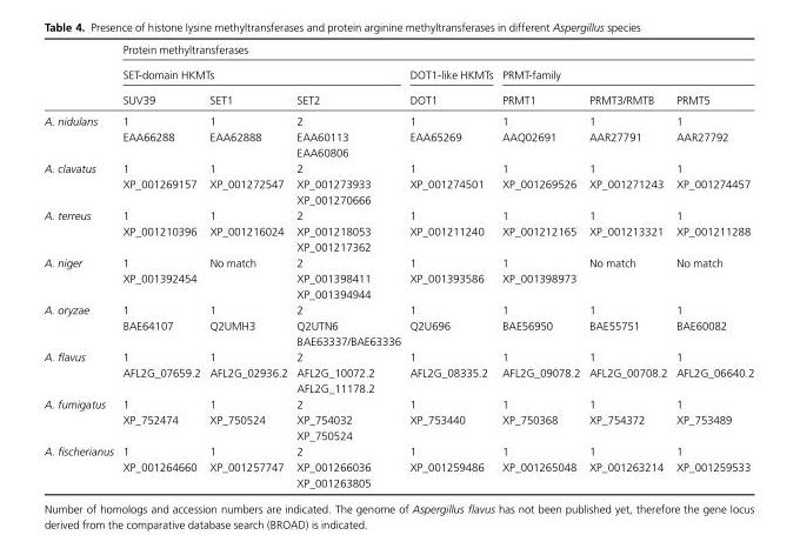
<table><thead><tr><td rowspan="3"></td><td colspan="7">Protein methyltransferases</td></tr><tr><td colspan="3">SET-domain HKMTs</td><td rowspan="2">DOT1-like HKMTs DOT1</td><td colspan="3">PRMT-family</td></tr><tr><td>SUV39</td><td>SET1</td><td>SET2</td><td>PRMT1</td><td>PRMT3/RMTB</td><td>PRMT5</td></tr></thead><tbody><tr><td>A. nidulans</td><td>1 EAA66288</td><td>1 EAA62888</td><td>2 EAA60113 EAA60806</td><td>1 EAA65269</td><td>1 AAQ02691</td><td>1 AAR27791</td><td>1 AAR27792</td></tr><tr><td>A. clavatus</td><td>1 XP_001269157</td><td>1 XP_001272547</td><td>2 XP_001273933 XP_001270666</td><td>1 XP_001274501</td><td>1 XP_001269526</td><td>1 XP_001271243</td><td>1 XP_001274457</td></tr><tr><td>A. terreus</td><td>1 XP_001210396</td><td>1 XP_001216024</td><td>2 XP_001218053 XP_001217362</td><td>1 XP_001211240</td><td>1 XP_001212165</td><td>1 XP_001213321</td><td>1 XP_001211288</td></tr><tr><td>A. niger</td><td>1 XP_001392454</td><td>No match</td><td>2 XP_001398411 XP_001394944</td><td>1 XP_001393586</td><td>1 XP_001398973</td><td>No match</td><td>No match</td></tr><tr><td>A. oryzae</td><td>1 BAE64107</td><td>1 Q2UMH3</td><td>2 Q2UTN6 BAE63337/BAE63336</td><td>1 Q2U696</td><td>1 BAE56950</td><td>1 BAE55751</td><td>1 BAE60082</td></tr><tr><td>A. flavus</td><td>1 AFL2G_07659.2</td><td>1 AFL2G_02936.2</td><td>2 AFL2G_10072.2 AFL2G_11178.2</td><td>1 AFL2G_08335.2</td><td>1 AFL2G_09078.2</td><td>1 AFL2G_00708.2</td><td>1 AFL2G_06640.2</td></tr><tr><td>A. fumigatus</td><td>1 XP_752474</td><td>1 XP_750524</td><td>2 XP_754032 XP_750524</td><td>1 XP_753440</td><td>1 XP_750368</td><td>1 XP_754372</td><td>1 XP_753489</td></tr><tr><td>A. fischerianus</td><td>1 XP_001264660</td><td>1 XP_001257747</td><td>2 XP_001266036 XP_001263805</td><td>1 XP_001259486</td><td>1 XP_001265048</td><td>1 XP_001263214</td><td>1 XP_001259533</td></tr></tbody></table>